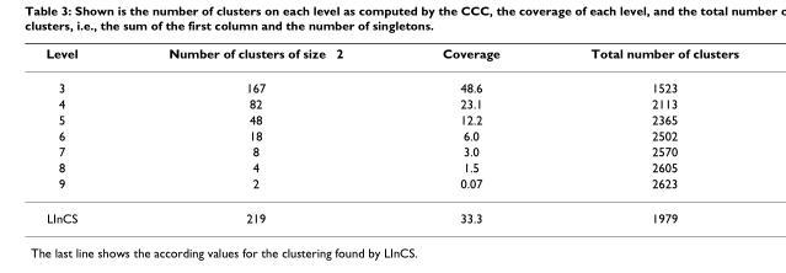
<table><thead><tr><td>Level</td><td>Number of clusters of size 2</td><td>Coverage</td><td>Total number of clusters</td></tr></thead><tbody><tr><td>3</td><td>167</td><td>48.6</td><td>1523</td></tr><tr><td>4</td><td>82</td><td>23.1</td><td>2113</td></tr><tr><td>5</td><td>48</td><td>12.2</td><td>2365</td></tr><tr><td>6</td><td>18</td><td>6.0</td><td>2502</td></tr><tr><td>7</td><td>8</td><td>3.0</td><td>2570</td></tr><tr><td>8</td><td>4</td><td>1.5</td><td>2605</td></tr><tr><td>9</td><td>2</td><td>0.07</td><td>2623</td></tr><tr><td>LInCS</td><td>219</td><td>33.3</td><td>1979</td></tr></tbody></table>